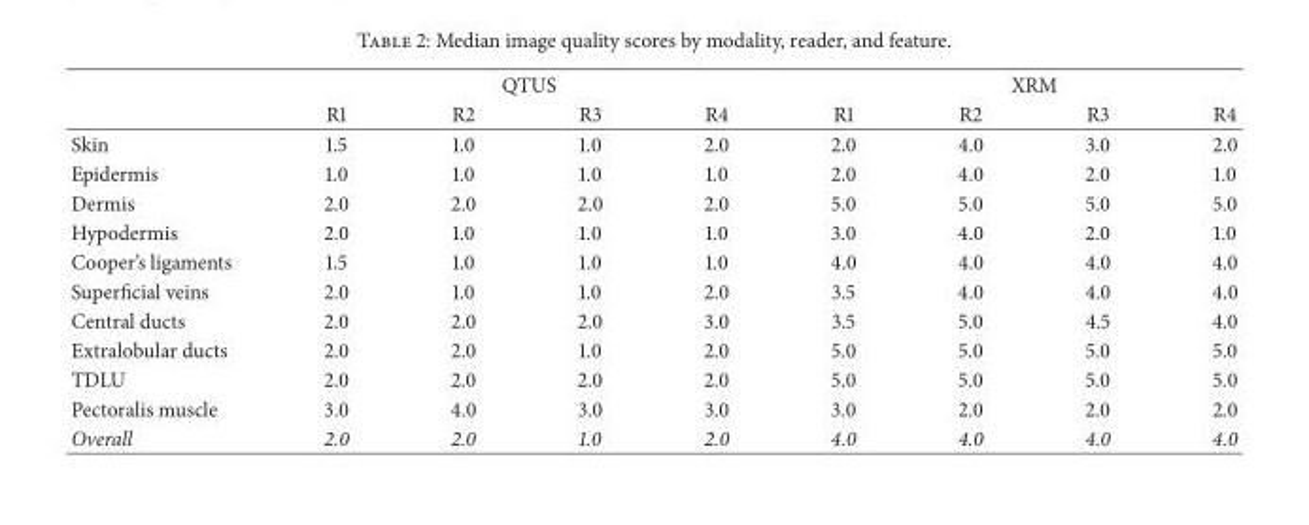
<table><thead><tr><td rowspan="2"></td><td colspan="4">QTUS</td><td colspan="4">XRM</td></tr><tr><td>R1</td><td>R2</td><td>R3</td><td>R4</td><td>R1</td><td>R2</td><td>R3</td><td>R4</td></tr></thead><tbody><tr><td>Skin</td><td>1.5</td><td>1.0</td><td>1.0</td><td>2.0</td><td>2.0</td><td>4.0</td><td>3.0</td><td>2.0</td></tr><tr><td>Epidermis</td><td>1.0</td><td>1.0</td><td>1.0</td><td>1.0</td><td>2.0</td><td>4.0</td><td>2.0</td><td>1.0</td></tr><tr><td>Dermis</td><td>2.0</td><td>2.0</td><td>2.0</td><td>2.0</td><td>5.0</td><td>5.0</td><td>5.0</td><td>5.0</td></tr><tr><td>Hypodermis</td><td>2.0</td><td>1.0</td><td>1.0</td><td>1.0</td><td>3.0</td><td>4.0</td><td>2.0</td><td>1.0</td></tr><tr><td>Cooper’s ligaments</td><td>1.5</td><td>1.0</td><td>1.0</td><td>1.0</td><td>4.0</td><td>4.0</td><td>4.0</td><td>4.0</td></tr><tr><td>Superficial veins</td><td>2.0</td><td>1.0</td><td>1.0</td><td>2.0</td><td>3.5</td><td>4.0</td><td>4.0</td><td>4.0</td></tr><tr><td>Central ducts</td><td>2.0</td><td>2.0</td><td>2.0</td><td>3.0</td><td>3.5</td><td>5.0</td><td>4.5</td><td>4.0</td></tr><tr><td>Extralobular ducts</td><td>2.0</td><td>2.0</td><td>1.0</td><td>2.0</td><td>5.0</td><td>5.0</td><td>5.0</td><td>5.0</td></tr><tr><td>TDLU</td><td>2.0</td><td>2.0</td><td>2.0</td><td>2.0</td><td>5.0</td><td>5.0</td><td>5.0</td><td>5.0</td></tr><tr><td>Pectoralis muscle</td><td>3.0</td><td>4.0</td><td>3.0</td><td>3.0</td><td>3.0</td><td>2.0</td><td>2.0</td><td>2.0</td></tr><tr><td>Overall</td><td>2.0</td><td>2.0</td><td>1.0</td><td>2.0</td><td>4.0</td><td>4.0</td><td>4.0</td><td>4.0</td></tr></tbody></table>